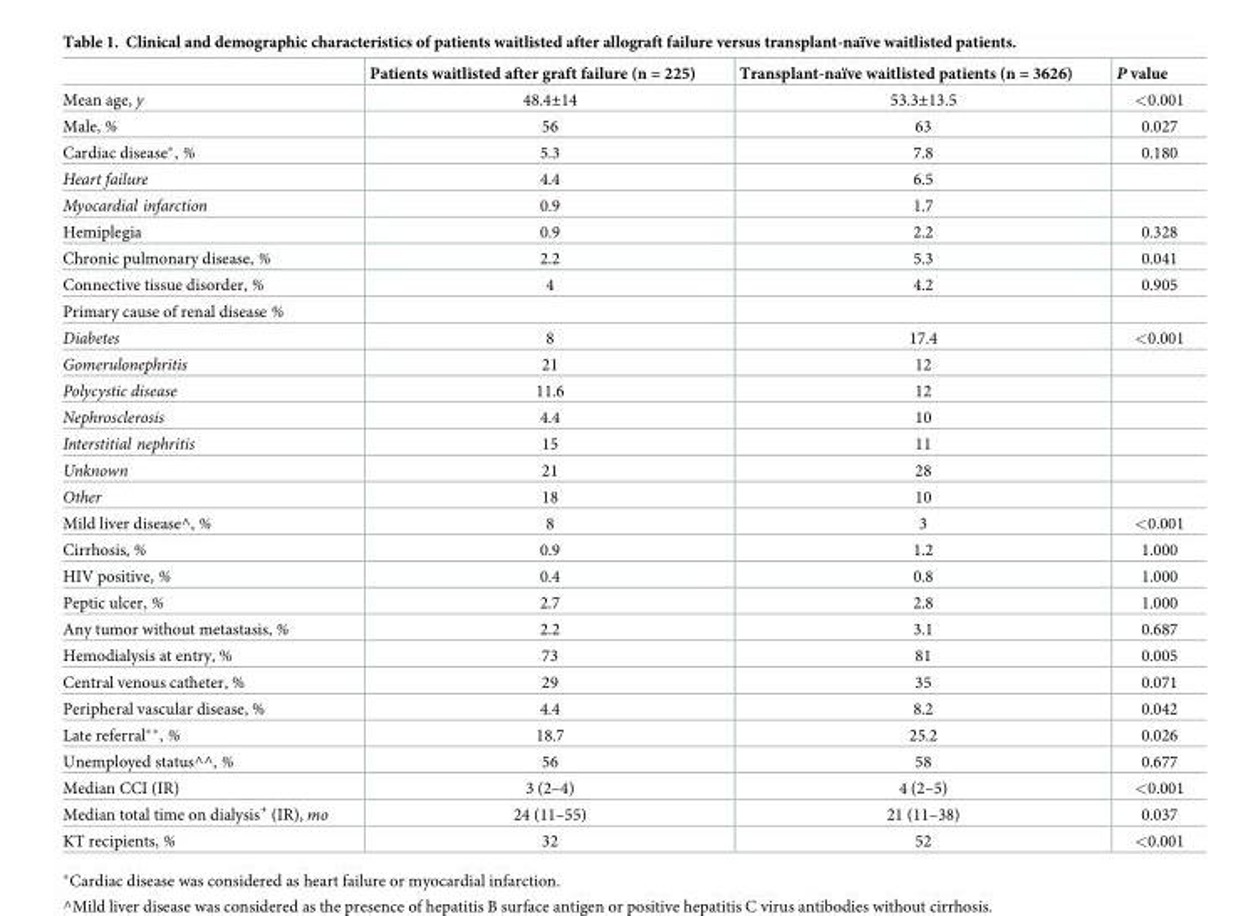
<table><thead><tr><td></td><td>Patients waitlisted after graft failure (n = 225)</td><td>Transplant-naïve waitlisted patients (n = 3626)</td><td>P value</td></tr></thead><tbody><tr><td>Mean age, y</td><td>48.4±14</td><td>53.3±13.5</td><td>&lt;0.001</td></tr><tr><td>Male, %</td><td>56</td><td>63</td><td>0.027</td></tr><tr><td>Cardiac disease*, %</td><td>5.3</td><td>7.8</td><td>0.180</td></tr><tr><td>Heart failure</td><td>4.4</td><td>6.5</td><td></td></tr><tr><td>Myocardial infarction</td><td>0.9</td><td>1.7</td><td></td></tr><tr><td>Hemiplegia</td><td>0.9</td><td>2.2</td><td>0.328</td></tr><tr><td>Chronic pulmonary disease, %</td><td>2.2</td><td>5.3</td><td>0.041</td></tr><tr><td>Connective tissue disorder, %</td><td>4</td><td>4.2</td><td>0.905</td></tr><tr><td colspan="4">Primary cause of renal disease %</td></tr><tr><td>Diabetes</td><td>8</td><td>17.4</td><td>&lt;0.001</td></tr><tr><td>Gomerulonephritis</td><td>21</td><td>12</td><td></td></tr><tr><td>Polycystic disease</td><td>11.6</td><td>12</td><td></td></tr><tr><td>Nephrosclerosis</td><td>4.4</td><td>10</td><td></td></tr><tr><td>Interstitial nephritis</td><td>15</td><td>11</td><td></td></tr><tr><td>Unknown</td><td>21</td><td>28</td><td></td></tr><tr><td>Other</td><td>18</td><td>10</td><td></td></tr><tr><td>Mild liver disease^, %</td><td>8</td><td>3</td><td>&lt;0.001</td></tr><tr><td>Cirrhosis, %</td><td>0.9</td><td>1.2</td><td>1.000</td></tr><tr><td>HIV positive, %</td><td>0.4</td><td>0.8</td><td>1.000</td></tr><tr><td>Peptic ulcer, %</td><td>2.7</td><td>2.8</td><td>1.000</td></tr><tr><td>Any tumor without metastasis, %</td><td>2.2</td><td>3.1</td><td>0.687</td></tr><tr><td>Hemodialysis at entry, %</td><td>73</td><td>81</td><td>0.005</td></tr><tr><td>Central venous catheter, %</td><td>29</td><td>35</td><td>0.071</td></tr><tr><td>Peripheral vascular disease, %</td><td>4.4</td><td>8.2</td><td>0.042</td></tr><tr><td>Late referral**, %</td><td>18.7</td><td>25.2</td><td>0.026</td></tr><tr><td>Unemployed status^^, %</td><td>56</td><td>58</td><td>0.677</td></tr><tr><td>Median CCI (IR)</td><td>3 (2–4)</td><td>4 (2–5)</td><td>&lt;0.001</td></tr><tr><td>Median total time on dialysis<sup>+</sup> (IR), mo</td><td>24 (11–55)</td><td>21 (11–38)</td><td>0.037</td></tr><tr><td>KT recipients, %</td><td>32</td><td>52</td><td>&lt;0.001</td></tr></tbody></table>